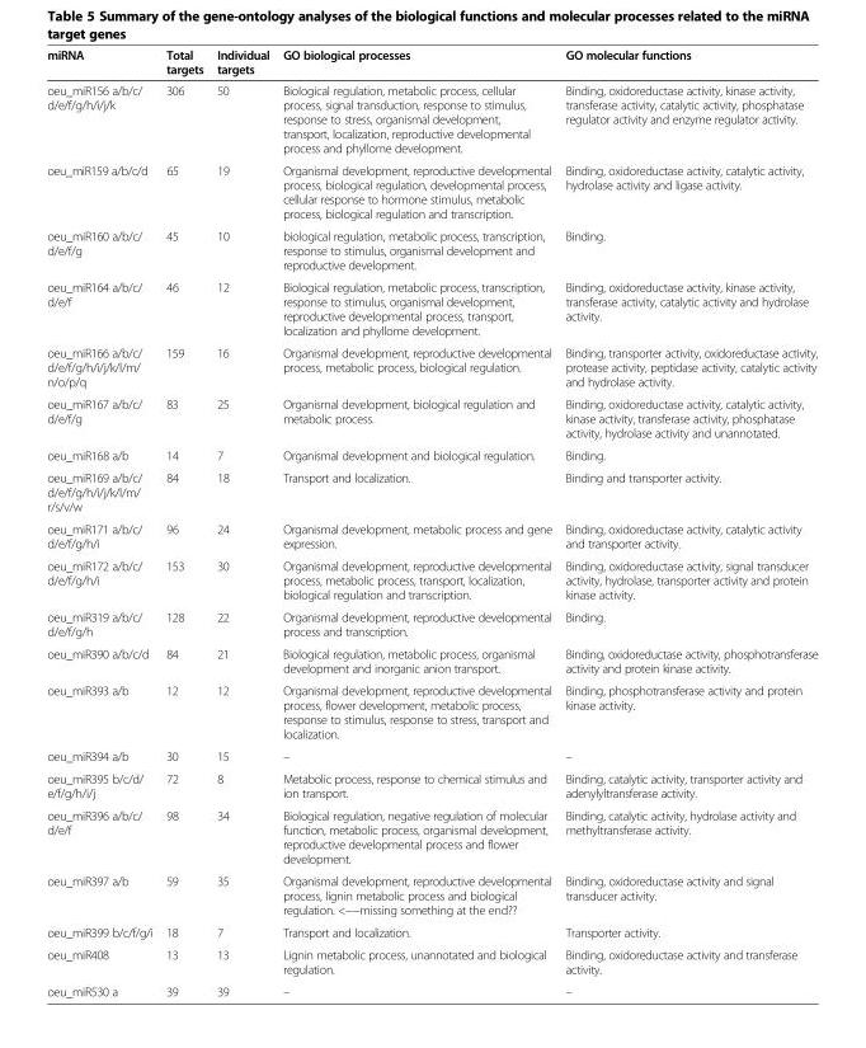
<table><thead><tr><td>miRNA</td><td>Total targets</td><td>Individual targets</td><td>GO biological processes</td><td>GO molecular functions</td></tr></thead><tbody><tr><td>oeu_miR156 a/b/c/ d/e/f/g/h/i/j/k</td><td>306</td><td>50</td><td>Biological regulation, metabolic process, cellular process, signal transduction, response to stimulus, response to stress, organismal development, transport, localization, reproductive developmental process and phyllome development.</td><td>Binding, oxidoreductase activity, kinase activity, transferase activity, catalytic activity, phosphatase regulator activity and enzyme regulator activity.</td></tr><tr><td>oeu_miR159 a/b/c/d</td><td>65</td><td>19</td><td>Organismal development, reproductive developmental process, biological regulation, developmental process, cellular response to hormone stimulus, metabolic process, biological regulation and transcription.</td><td>Binding, oxidoreductase activity, catalytic activity, hydrolase activity and ligase activity.</td></tr><tr><td>oeu_miR160 a/b/c/ d/e/f/g</td><td>45</td><td>10</td><td>biological regulation, metabolic process, transcription, response to stimulus, organismal development and reproductive development.</td><td>Binding.</td></tr><tr><td>oeu_miR164 a/b/c/ d/e/f</td><td>46</td><td>12</td><td>Biological regulation, metabolic process, transcription, response to stimulus, organismal development, reproductive developmental process, transport, localization and phyllome development.</td><td>Binding, oxidoreductase activity, kinase activity, transferase activity, catalytic activity and hydrolase activity.</td></tr><tr><td>oeu_miR166 a/b/c/ d/e/f/g/h/i/j/k/l/m/ n/o/p/q</td><td>159</td><td>16</td><td>Organismal development, reproductive developmental process, metabolic process, biological regulation.</td><td>Binding, transporter activity, oxidoreductase activity, protease activity, peptidase activity, catalytic activity and hydrolase activity.</td></tr><tr><td>oeu_miR167 a/b/c/ d/e/f/g</td><td>83</td><td>25</td><td>Organismal development, biological regulation and metabolic process.</td><td>Binding, oxidoreductase activity, catalytic activity, kinase activity, transferase activity, phosphatase activity, hydrolase activity and unannotated.</td></tr><tr><td>oeu_miR168 a/b</td><td>14</td><td>7</td><td>Organismal development and biological regulation.</td><td>Binding.</td></tr><tr><td>oeu_miR169 a/b/c/ d/e/f/g/h/i/j/k/l/m/ r/s/v/w</td><td>84</td><td>18</td><td>Transport and localization.</td><td>Binding and transporter activity.</td></tr><tr><td>oeu_miR171 a/b/c/ d/e/f/g/h/i</td><td>96</td><td>24</td><td>Organismal development, metabolic process and gene expression.</td><td>Binding, oxidoreductase activity, catalytic activity and transporter activity.</td></tr><tr><td>oeu_miR172 a/b/c/ d/e/f/g/h/i</td><td>153</td><td>30</td><td>Organismal development, reproductive developmental process, metabolic process, transport, localization, biological regulation and transcription.</td><td>Binding, oxidoreductase activity, signal transducer activity, hydrolase, transporter activity and protein kinase activity.</td></tr><tr><td>oeu_miR319 a/b/c/ d/e/f/g/h</td><td>128</td><td>22</td><td>Organismal development, reproductive developmental process and transcription.</td><td>Binding.</td></tr><tr><td>oeu_miR390 a/b/c/d</td><td>84</td><td>21</td><td>Biological regulation, metabolic process, organismal development and inorganic anion transport.</td><td>Binding, oxidoreductase activity, phosphotransferase activity and protein kinase activity.</td></tr><tr><td>oeu_miR393 a/b</td><td>12</td><td>12</td><td>Organismal development, reproductive developmental process, flower development, metabolic process, response to stimulus, response to stress, transport and localization.</td><td>Binding, phosphotransferase activity and protein kinase activity.</td></tr><tr><td>oeu_miR394 a/b</td><td>30</td><td>15</td><td>–</td><td>–</td></tr><tr><td>oeu_miR395 b/c/d/ e/f/g/h/i/j</td><td>72</td><td>8</td><td>Metabolic process, response to chemical stimulus and ion transport.</td><td>Binding, catalytic activity, transporter activity and adenylyltransferase activity.</td></tr><tr><td>oeu_miR396 a/b/c/ d/e/f</td><td>98</td><td>34</td><td>Biological regulation, negative regulation of molecular function, metabolic process, organismal development, reproductive developmental process and flower development.</td><td>Binding, catalytic activity, hydrolase activity and methyltransferase activity.</td></tr><tr><td>oeu_miR397 a/b</td><td>59</td><td>35</td><td>Organismal development, reproductive developmental process, lignin metabolic process and biological regulation. &lt;−−missing something at the end??</td><td>Binding, oxidoreductase activity and signal transducer activity.</td></tr><tr><td>oeu_miR399 b/c/f/g/i</td><td>18</td><td>7</td><td>Transport and localization.</td><td>Transporter activity.</td></tr><tr><td>oeu_miR408</td><td>13</td><td>13</td><td>Lignin metabolic process, unannotated and biological regulation.</td><td>Binding, oxidoreductase activity and transferase activity.</td></tr><tr><td>oeu_miR530 a</td><td>39</td><td>39</td><td>–</td><td>–</td></tr></tbody></table>